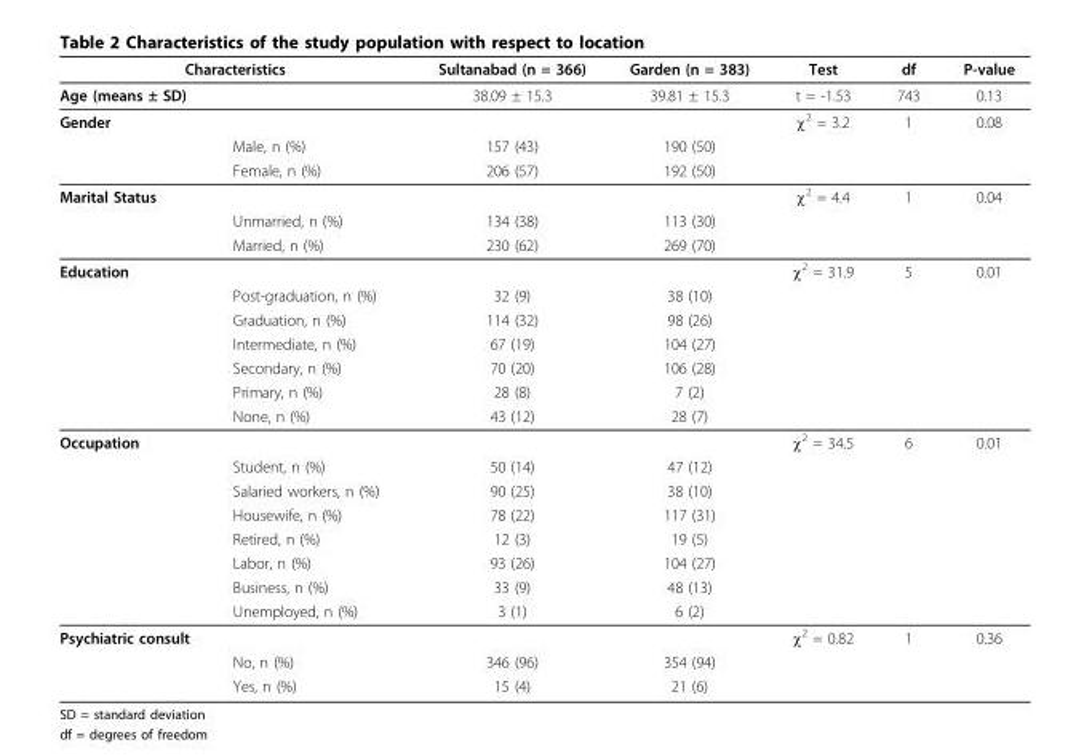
<table><thead><tr><td colspan="2">Characteristics</td><td rowspan="2">Sultanabad (n = 366) 38.09 ± 15.3</td><td rowspan="2">Garden (n = 383) 39.81 ± 15.3</td><td rowspan="2">Test t = -1.53</td><td rowspan="2">df 743</td><td rowspan="2">P-value 0.13</td></tr><tr><td>Age (means ± SD)</td><td></td></tr></thead><tbody><tr><td rowspan="3">Gender</td><td></td><td></td><td></td><td>χ<sup>2</sup> = 3.2</td><td>1</td><td>0.08</td></tr><tr><td>Male, n (%)</td><td>157 (43)</td><td>190 (50)</td><td></td><td></td><td></td></tr><tr><td>Female, n (%)</td><td>206 (57)</td><td>192 (50)</td><td></td><td></td><td></td></tr><tr><td rowspan="3">Marital Status</td><td></td><td></td><td></td><td>χ<sup>2</sup> = 4.4</td><td>1</td><td>0.04</td></tr><tr><td>Unmarried, n (%)</td><td>134 (38)</td><td>113 (30)</td><td></td><td></td><td></td></tr><tr><td>Married, n (%)</td><td>230 (62)</td><td>269 (70)</td><td></td><td></td><td></td></tr><tr><td rowspan="7">Education</td><td></td><td></td><td></td><td>χ<sup>2</sup> = 31.9</td><td>5</td><td>0.01</td></tr><tr><td>Post-graduation, n (%)</td><td>32 (9)</td><td>38 (10)</td><td></td><td></td><td></td></tr><tr><td>Graduation, n (%)</td><td>114 (32)</td><td>98 (26)</td><td></td><td></td><td></td></tr><tr><td>Intermediate, n (%)</td><td>67 (19)</td><td>104 (27)</td><td></td><td></td><td></td></tr><tr><td>Secondary, n (%)</td><td>70 (20)</td><td>106 (28)</td><td></td><td></td><td></td></tr><tr><td>Primary, n (%)</td><td>28 (8)</td><td>7 (2)</td><td></td><td></td><td></td></tr><tr><td>None, n (%)</td><td>43 (12)</td><td>28 (7)</td><td></td><td></td><td></td></tr><tr><td rowspan="8">Occupation</td><td></td><td></td><td></td><td>χ<sup>2</sup> = 34.5</td><td>6</td><td>0.01</td></tr><tr><td>Student, n (%)</td><td>50 (14)</td><td>47 (12)</td><td></td><td></td><td></td></tr><tr><td>Salaried workers, n (%)</td><td>90 (25)</td><td>38 (10)</td><td></td><td></td><td></td></tr><tr><td>Housewife, n (%)</td><td>78 (22)</td><td>117 (31)</td><td></td><td></td><td></td></tr><tr><td>Retired, n (%)</td><td>12 (3)</td><td>19 (5)</td><td></td><td></td><td></td></tr><tr><td>Labor, n (%)</td><td>93 (26)</td><td>104 (27)</td><td></td><td></td><td></td></tr><tr><td>Business, n (%)</td><td>33 (9)</td><td>48 (13)</td><td></td><td></td><td></td></tr><tr><td>Unemployed, n (%)</td><td>3 (1)</td><td>6 (2)</td><td></td><td></td><td></td></tr><tr><td rowspan="3">Psychiatric consult</td><td></td><td></td><td></td><td>χ<sup>2</sup> = 0.82</td><td>1</td><td>0.36</td></tr><tr><td>No, n (%)</td><td>346 (96)</td><td>354 (94)</td><td></td><td></td><td></td></tr><tr><td>Yes, n (%)</td><td>15 (4)</td><td>21 (6)</td><td></td><td></td><td></td></tr></tbody></table>